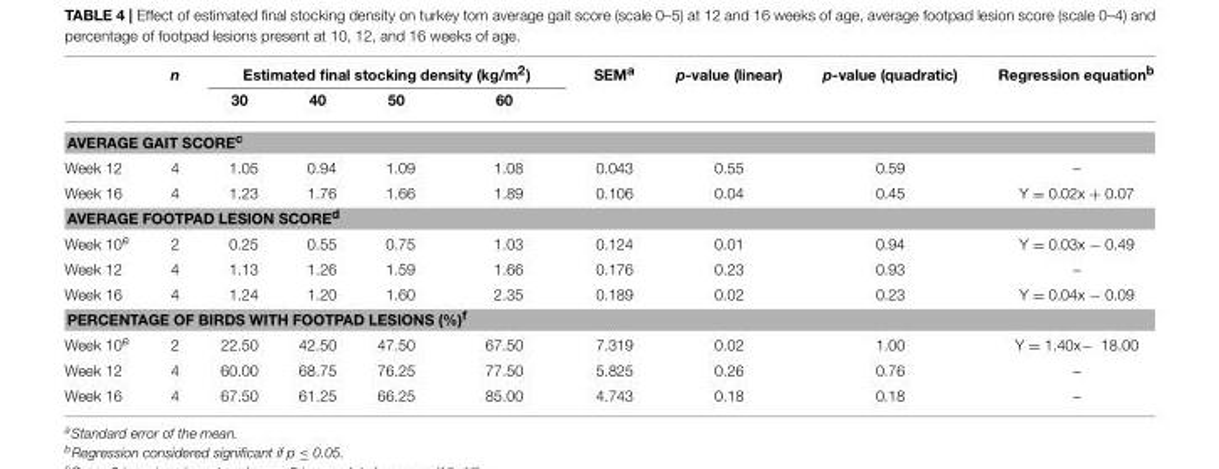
<table><thead><tr><td rowspan="2"></td><td rowspan="2">n</td><td colspan="4">Estimated final stocking density (kg/m<sup>2</sup>)</td><td rowspan="2">SEM<sup>a</sup></td><td rowspan="2">p-value (linear)</td><td rowspan="2">p-value (quadratic)</td><td rowspan="2">Regression equation<sup>b</sup></td></tr><tr><td>30</td><td>40</td><td>50</td><td>60</td></tr></thead><tbody><tr><td colspan="10">AVERAGE GAIT SCORE<sup>c</sup></td></tr><tr><td>Week 12</td><td>4</td><td>1.05</td><td>0.94</td><td>1.09</td><td>1.08</td><td>0.043</td><td>0.55</td><td>0.59</td><td>–</td></tr><tr><td>Week 16</td><td>4</td><td>1.23</td><td>1.76</td><td>1.66</td><td>1.89</td><td>0.106</td><td>0.04</td><td>0.45</td><td>Y = 0.02x + 0.07</td></tr><tr><td colspan="10">AVERAGE FOOTPAD LESION SCORE<sup>d</sup></td></tr><tr><td>Week 10<sup>e</sup></td><td>2</td><td>0.25</td><td>0.55</td><td>0.75</td><td>1.03</td><td>0.124</td><td>0.01</td><td>0.94</td><td>Y = 0.03x − 0.49</td></tr><tr><td>Week 12</td><td>4</td><td>1.13</td><td>1.26</td><td>1.59</td><td>1.66</td><td>0.176</td><td>0.23</td><td>0.93</td><td>–</td></tr><tr><td>Week 16</td><td>4</td><td>1.24</td><td>1.20</td><td>1.60</td><td>2.35</td><td>0.189</td><td>0.02</td><td>0.23</td><td>Y = 0.04x − 0.09</td></tr><tr><td colspan="10">PERCENTAGE OF BIRDS WITH FOOTPAD LESIONS (%)<sup>f</sup></td></tr><tr><td>Week 10<sup>e</sup></td><td>2</td><td>22.50</td><td>42.50</td><td>47.50</td><td>67.50</td><td>7.319</td><td>0.02</td><td>1.00</td><td>Y = 1.40x− 18.00</td></tr><tr><td>Week 12</td><td>4</td><td>60.00</td><td>68.75</td><td>76.25</td><td>77.50</td><td>5.825</td><td>0.26</td><td>0.76</td><td>–</td></tr><tr><td>Week 16</td><td>4</td><td>67.50</td><td>61.25</td><td>66.25</td><td>85.00</td><td>4.743</td><td>0.18</td><td>0.18</td><td>–</td></tr></tbody></table>